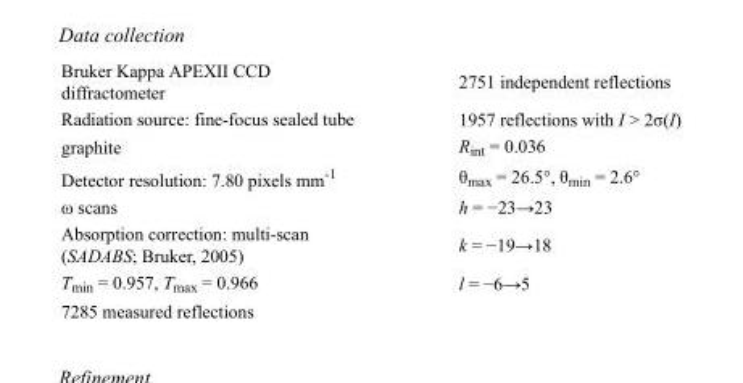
<table><tbody><tr><td>Bruker Kappa APEXII CCD diffractometer</td><td>2751 independent reflections</td></tr><tr><td>Radiation source: fine-focus sealed tube</td><td>1957 reflections with I &gt; 2σ(I)</td></tr><tr><td>graphite</td><td>R<sub>int</sub> = 0.036</td></tr><tr><td>Detector resolution: 7.80 pixels mm<sup>-1</sup></td><td>θ<sub>max</sub> = 26.5°, θ<sub>min</sub> = 2.6°</td></tr><tr><td>ω scans</td><td>h = −23→23</td></tr><tr><td>Absorption correction: multi-scan (SADABS; Bruker, 2005)</td><td>k = −19→18</td></tr><tr><td>T<sub>min</sub> = 0.957, T<sub>max</sub> = 0.966</td><td>l = −6→5</td></tr><tr><td>7285 measured reflections</td><td></td></tr></tbody></table>